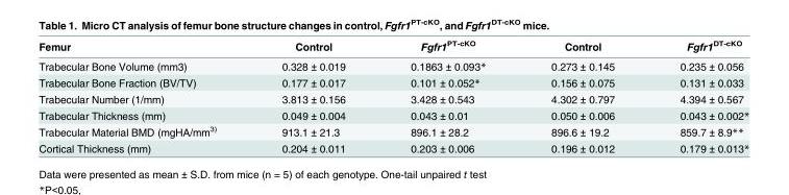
<table><thead><tr><td>Femur</td><td>Control</td><td>Fgfr1<sup>PT-cKO</sup></td><td>Control</td><td>Fgfr1<sup>DT-cKO</sup></td></tr></thead><tbody><tr><td>Trabecular Bone Volume (mm3)</td><td>0.328 ± 0.019</td><td>0.1863 ± 0.093*</td><td>0.273 ± 0.145</td><td>0.235 ± 0.056</td></tr><tr><td>Trabecular Bone Fraction (BV/TV)</td><td>0.177 ± 0.017</td><td>0.101 ± 0.052*</td><td>0.156 ± 0.075</td><td>0.131 ± 0.033</td></tr><tr><td>Trabecular Number (1/mm)</td><td>3.813 ± 0.156</td><td>3.428 ± 0.543</td><td>4.302 ± 0.797</td><td>4.394 ± 0.567</td></tr><tr><td>Trabecular Thickness (mm)</td><td>0.049 ± 0.004</td><td>0.043 ± 0.01</td><td>0.050 ± 0.006</td><td>0.043 ± 0.002*</td></tr><tr><td>Trabecular Material BMD (mgHA/mm<sup>3)</sup></td><td>913.1 ± 21.3</td><td>896.1 ± 28.2</td><td>896.6 ± 19.2</td><td>859.7 ± 8.9**</td></tr><tr><td>Cortical Thickness (mm)</td><td>0.204 ± 0.011</td><td>0.203 ± 0.006</td><td>0.196 ± 0.012</td><td>0.179 ± 0.013*</td></tr></tbody></table>